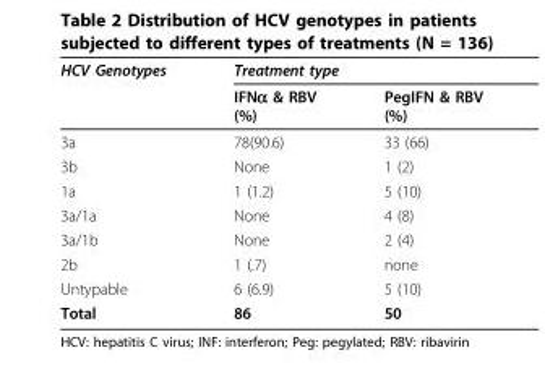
<table><thead><tr><td rowspan="2">HCV Genotypes</td><td colspan="2">Treatment type</td></tr><tr><td>IFNα &amp; RBV (%)</td><td>PegIFN &amp; RBV (%)</td></tr></thead><tbody><tr><td>3a</td><td>78(90.6)</td><td>33 (66)</td></tr><tr><td>3b</td><td>None</td><td>1 (2)</td></tr><tr><td>1a</td><td>1 (1.2)</td><td>5 (10)</td></tr><tr><td>3a/1a</td><td>None</td><td>4 (8)</td></tr><tr><td>3a/1b</td><td>None</td><td>2 (4)</td></tr><tr><td>2b</td><td>1 (.7)</td><td>none</td></tr><tr><td>Untypable</td><td>6 (6.9)</td><td>5 (10)</td></tr><tr><td>Total</td><td>86</td><td>50</td></tr></tbody></table>